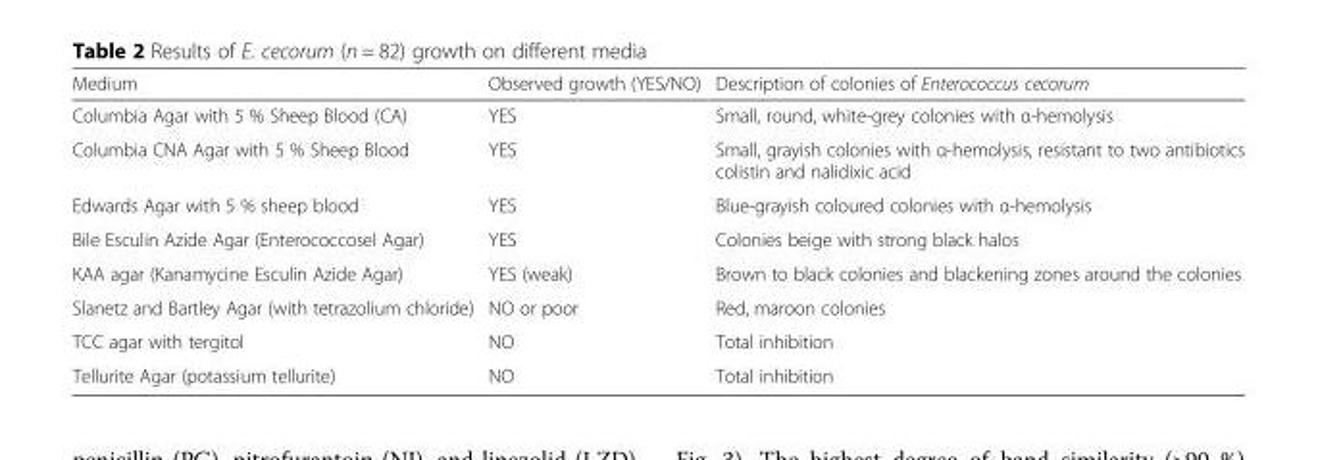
<table><thead><tr><td>Medium</td><td>Observed growth (YES/NO)</td><td>Description of colonies of Enterococcus cecorum</td></tr></thead><tbody><tr><td>Columbia Agar with 5 % Sheep Blood (CA)</td><td>YES</td><td>Small, round, white-grey colonies with α-hemolysis</td></tr><tr><td>Columbia CNA Agar with 5 % Sheep Blood</td><td>YES</td><td>Small, grayish colonies with α-hemolysis, resistant to two antibiotics colistin and nalidixic acid</td></tr><tr><td>Edwards Agar with 5 % sheep blood</td><td>YES</td><td>Blue-grayish coloured colonies with α-hemolysis</td></tr><tr><td>Bile Esculin Azide Agar (Enterococcosel Agar)</td><td>YES</td><td>Colonies beige with strong black halos</td></tr><tr><td>KAA agar (Kanamycine Esculin Azide Agar)</td><td>YES (weak)</td><td>Brown to black colonies and blackening zones around the colonies</td></tr><tr><td>Slanetz and Bartley Agar (with tetrazolium chloride)</td><td>NO or poor</td><td>Red, maroon colonies</td></tr><tr><td>TCC agar with tergitol</td><td>NO</td><td>Total inhibition</td></tr><tr><td>Tellurite Agar (potassium tellurite)</td><td>NO</td><td>Total inhibition</td></tr></tbody></table>